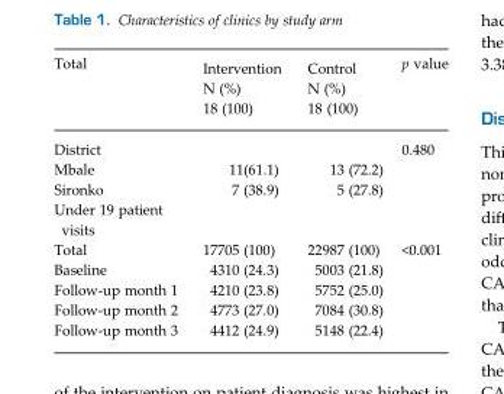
<table><thead><tr><td rowspan="2">Total</td><td rowspan="2">Intervention N (%) 18 (100)</td><td rowspan="2">Control N (%) 18 (100)</td><td rowspan="2">p value</td></tr><tr></tr></thead><tbody><tr><td>District</td><td></td><td></td><td>0.480</td></tr><tr><td>Mbale</td><td>11(61.1)</td><td>13 (72.2)</td><td></td></tr><tr><td>Sironko</td><td>7 (38.9)</td><td>5 (27.8)</td><td></td></tr><tr><td colspan="4">Under 19 patient visits</td></tr><tr><td>Total</td><td>17705 (100)</td><td>22987 (100)</td><td>&lt;0.001</td></tr><tr><td>Baseline</td><td>4310 (24.3)</td><td>5003 (21.8)</td><td></td></tr><tr><td>Follow-up month 1</td><td>4210 (23.8)</td><td>5752 (25.0)</td><td></td></tr><tr><td>Follow-up month 2</td><td>4773 (27.0)</td><td>7084 (30.8)</td><td></td></tr><tr><td>Follow-up month 3</td><td>4412 (24.9)</td><td>5148 (22.4)</td><td></td></tr></tbody></table>